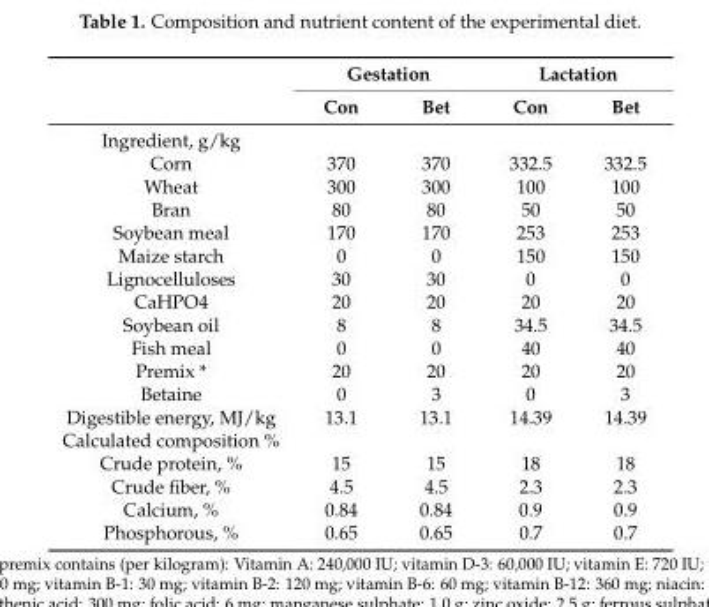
<table><thead><tr><td rowspan="2"></td><td colspan="2">Gestation</td><td colspan="2">Lactation</td></tr><tr><td>Con</td><td>Bet</td><td>Con</td><td>Bet</td></tr></thead><tbody><tr><td colspan="5">Ingredient, g/kg</td></tr><tr><td>Corn</td><td>370</td><td>370</td><td>332.5</td><td>332.5</td></tr><tr><td>Wheat</td><td>300</td><td>300</td><td>100</td><td>100</td></tr><tr><td>Bran</td><td>80</td><td>80</td><td>50</td><td>50</td></tr><tr><td>Soybean meal</td><td>170</td><td>170</td><td>253</td><td>253</td></tr><tr><td>Maize starch</td><td>0</td><td>0</td><td>150</td><td>150</td></tr><tr><td>Lignocelluloses</td><td>30</td><td>30</td><td>0</td><td>0</td></tr><tr><td>CaHPO4</td><td>20</td><td>20</td><td>20</td><td>20</td></tr><tr><td>Soybean oil</td><td>8</td><td>8</td><td>34.5</td><td>34.5</td></tr><tr><td>Fish meal</td><td>0</td><td>0</td><td>40</td><td>40</td></tr><tr><td>Premix *</td><td>20</td><td>20</td><td>20</td><td>20</td></tr><tr><td>Betaine</td><td>0</td><td>3</td><td>0</td><td>3</td></tr><tr><td>Digestible energy, MJ/kg</td><td>13.1</td><td>13.1</td><td>14.39</td><td>14.39</td></tr><tr><td colspan="5">Calculated composition %</td></tr><tr><td>Crude protein, %</td><td>15</td><td>15</td><td>18</td><td>18</td></tr><tr><td>Crude fiber, %</td><td>4.5</td><td>4.5</td><td>2.3</td><td>2.3</td></tr><tr><td>Calcium, %</td><td>0.84</td><td>0.84</td><td>0.9</td><td>0.9</td></tr><tr><td>Phosphorous, %</td><td>0.65</td><td>0.65</td><td>0.7</td><td>0.7</td></tr></tbody></table>